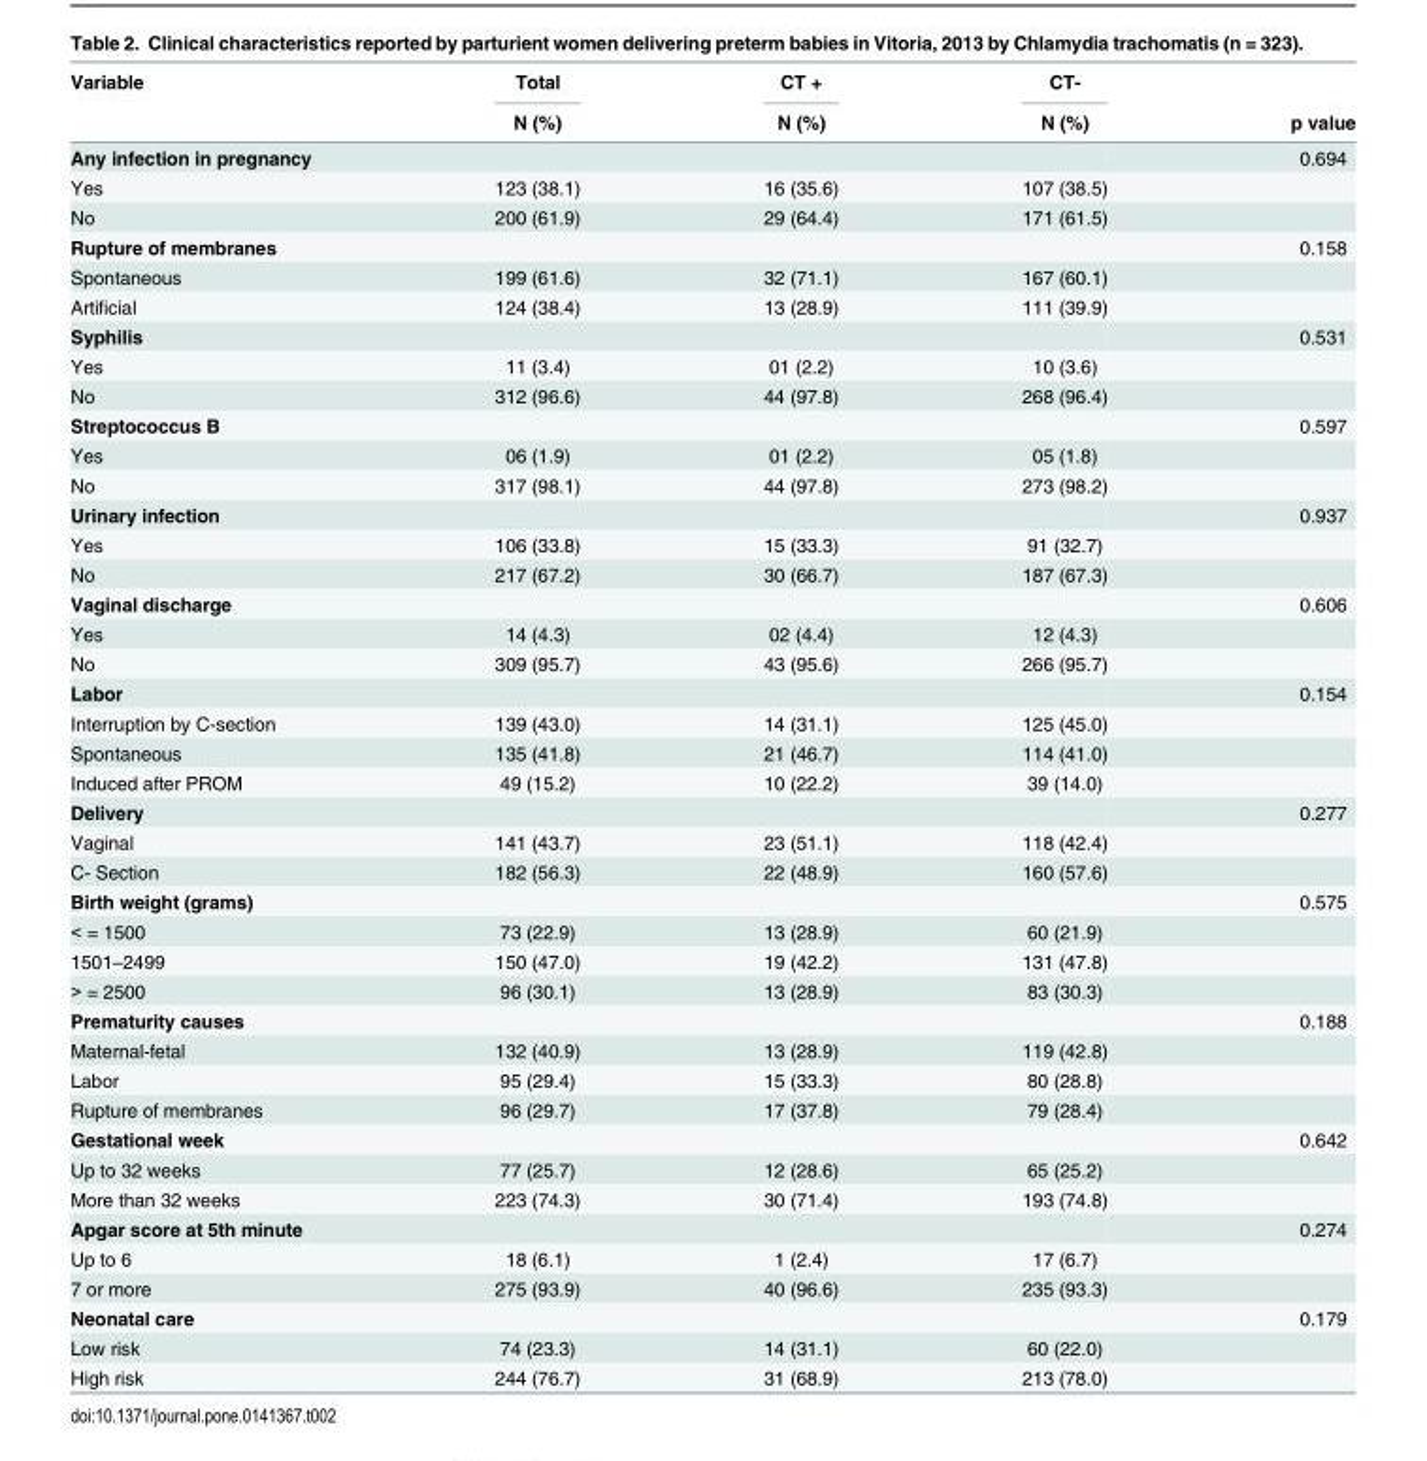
<table><thead><tr><td rowspan="2">Variable</td><td rowspan="2">Total N (%)</td><td rowspan="2">CT + N (%)</td><td rowspan="2">CT- N (%)</td><td rowspan="2">p value</td></tr><tr></tr></thead><tbody><tr><td>Any infection in pregnancy</td><td></td><td></td><td></td><td>0.694</td></tr><tr><td>Yes</td><td>123 (38.1)</td><td>16 (35.6)</td><td>107 (38.5)</td><td></td></tr><tr><td>No</td><td>200 (61.9)</td><td>29 (64.4)</td><td>171 (61.5)</td><td></td></tr><tr><td>Rupture of membranes</td><td></td><td></td><td></td><td>0.158</td></tr><tr><td>Spontaneous</td><td>199 (61.6)</td><td>32 (71.1)</td><td>167 (60.1)</td><td></td></tr><tr><td>Artificial</td><td>124 (38.4)</td><td>13 (28.9)</td><td>111 (39.9)</td><td></td></tr><tr><td>Syphilis</td><td></td><td></td><td></td><td>0.531</td></tr><tr><td>Yes</td><td>11 (3.4)</td><td>01 (2.2)</td><td>10 (3.6)</td><td></td></tr><tr><td>No</td><td>312 (96.6)</td><td>44 (97.8)</td><td>268 (96.4)</td><td></td></tr><tr><td>Streptococcus B</td><td></td><td></td><td></td><td>0.597</td></tr><tr><td>Yes</td><td>06 (1.9)</td><td>01 (2.2)</td><td>05 (1.8)</td><td></td></tr><tr><td>No</td><td>317 (98.1)</td><td>44 (97.8)</td><td>273 (98.2)</td><td></td></tr><tr><td>Urinary infection</td><td></td><td></td><td></td><td>0.937</td></tr><tr><td>Yes</td><td>106 (33.8)</td><td>15 (33.3)</td><td>91 (32.7)</td><td></td></tr><tr><td>No</td><td>217 (67.2)</td><td>30 (66.7)</td><td>187 (67.3)</td><td></td></tr><tr><td>Vaginal discharge</td><td></td><td></td><td></td><td>0.606</td></tr><tr><td>Yes</td><td>14 (4.3)</td><td>02 (4.4)</td><td>12 (4.3)</td><td></td></tr><tr><td>No</td><td>309 (95.7)</td><td>43 (95.6)</td><td>266 (95.7)</td><td></td></tr><tr><td>Labor</td><td></td><td></td><td></td><td>0.154</td></tr><tr><td>Interruption by C-section</td><td>139 (43.0)</td><td>14 (31.1)</td><td>125 (45.0)</td><td></td></tr><tr><td>Spontaneous</td><td>135 (41.8)</td><td>21 (46.7)</td><td>114 (41.0)</td><td></td></tr><tr><td>Induced after PROM</td><td>49 (15.2)</td><td>10 (22.2)</td><td>39 (14.0)</td><td></td></tr><tr><td>Delivery</td><td></td><td></td><td></td><td>0.277</td></tr><tr><td>Vaginal</td><td>141 (43.7)</td><td>23 (51.1)</td><td>118 (42.4)</td><td></td></tr><tr><td>C- Section</td><td>182 (56.3)</td><td>22 (48.9)</td><td>160 (57.6)</td><td></td></tr><tr><td>Birth weight (grams)</td><td></td><td></td><td></td><td>0.575</td></tr><tr><td>&lt; = 1500</td><td>73 (22.9)</td><td>13 (28.9)</td><td>60 (21.9)</td><td></td></tr><tr><td>1501–2499</td><td>150 (47.0)</td><td>19 (42.2)</td><td>131 (47.8)</td><td></td></tr><tr><td>&gt; = 2500</td><td>96 (30.1)</td><td>13 (28.9)</td><td>83 (30.3)</td><td></td></tr><tr><td>Prematurity causes</td><td></td><td></td><td></td><td>0.188</td></tr><tr><td>Maternal-fetal</td><td>132 (40.9)</td><td>13 (28.9)</td><td>119 (42.8)</td><td></td></tr><tr><td>Labor</td><td>95 (29.4)</td><td>15 (33.3)</td><td>80 (28.8)</td><td></td></tr><tr><td>Rupture of membranes</td><td>96 (29.7)</td><td>17 (37.8)</td><td>79 (28.4)</td><td></td></tr><tr><td>Gestational week</td><td></td><td></td><td></td><td>0.642</td></tr><tr><td>Up to 32 weeks</td><td>77 (25.7)</td><td>12 (28.6)</td><td>65 (25.2)</td><td></td></tr><tr><td>More than 32 weeks</td><td>223 (74.3)</td><td>30 (71.4)</td><td>193 (74.8)</td><td></td></tr><tr><td>Apgar score at 5th minute</td><td></td><td></td><td></td><td>0.274</td></tr><tr><td>Up to 6</td><td>18 (6.1)</td><td>1 (2.4)</td><td>17 (6.7)</td><td></td></tr><tr><td>7 or more</td><td>275 (93.9)</td><td>40 (96.6)</td><td>235 (93.3)</td><td></td></tr><tr><td>Neonatal care</td><td></td><td></td><td></td><td>0.179</td></tr><tr><td>Low risk</td><td>74 (23.3)</td><td>14 (31.1)</td><td>60 (22.0)</td><td></td></tr><tr><td>High risk</td><td>244 (76.7)</td><td>31 (68.9)</td><td>213 (78.0)</td><td></td></tr></tbody></table>